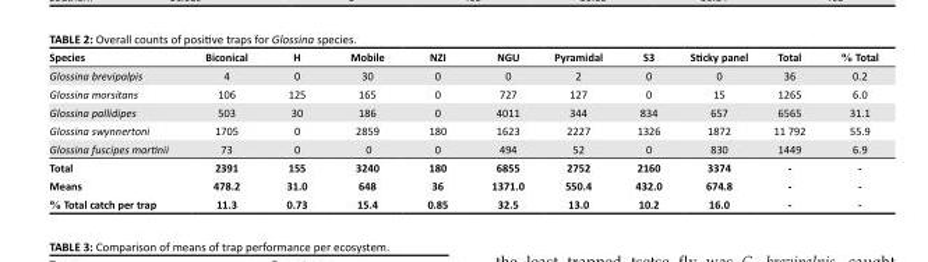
<table><thead><tr><td>Species</td><td>Biconical</td><td>H</td><td>Mobile</td><td>NZI</td><td>NGU</td><td>Pyramidal</td><td>S3</td><td>Sticky panel</td><td>Total</td><td>% Total</td></tr></thead><tbody><tr><td>Glossina brevipalpis</td><td>4</td><td>0</td><td>30</td><td>0</td><td>0</td><td>2</td><td>0</td><td>0</td><td>36</td><td>0.2</td></tr><tr><td>Glossina morsitans</td><td>106</td><td>125</td><td>165</td><td>0</td><td>727</td><td>127</td><td>0</td><td>15</td><td>1265</td><td>6.0</td></tr><tr><td>Glossina pallidipes</td><td>503</td><td>30</td><td>186</td><td>0</td><td>4011</td><td>344</td><td>834</td><td>657</td><td>6565</td><td>31.1</td></tr><tr><td>Glossina swynnertoni</td><td>1705</td><td>0</td><td>2859</td><td>180</td><td>1623</td><td>2227</td><td>1326</td><td>1872</td><td>11 792</td><td>55.9</td></tr><tr><td>Glossina fuscipes martinii</td><td>73</td><td>0</td><td>0</td><td>0</td><td>494</td><td>52</td><td>0</td><td>830</td><td>1449</td><td>6.9</td></tr><tr><td>Total</td><td>2391</td><td>155</td><td>3240</td><td>180</td><td>6855</td><td>2752</td><td>2160</td><td>3374</td><td>-</td><td>-</td></tr><tr><td>Means</td><td>478.2</td><td>31.0</td><td>648</td><td>36</td><td>1371.0</td><td>550.4</td><td>432.0</td><td>674.8</td><td>-</td><td>-</td></tr><tr><td>% Total catch per trap</td><td>11.3</td><td>0.73</td><td>15.4</td><td>0.85</td><td>32.5</td><td>13.0</td><td>10.2</td><td>16.0</td><td>-</td><td>-</td></tr></tbody></table>